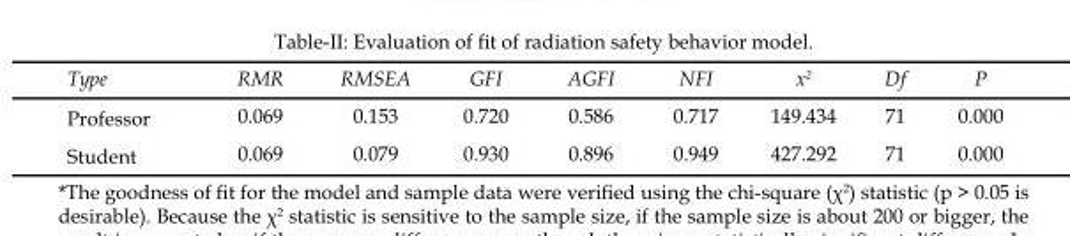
<table><thead><tr><td>Type</td><td>RMR</td><td>RMSEA</td><td>GFI</td><td>AGFI</td><td>NFI</td><td>x<sup>2</sup></td><td>Df</td><td>P</td></tr></thead><tbody><tr><td>Professor</td><td>0.069</td><td>0.153</td><td>0.720</td><td>0.586</td><td>0.717</td><td>149.434</td><td>71</td><td>0.000</td></tr><tr><td>Student</td><td>0.069</td><td>0.079</td><td>0.930</td><td>0.896</td><td>0.949</td><td>427.292</td><td>71</td><td>0.000</td></tr></tbody></table>